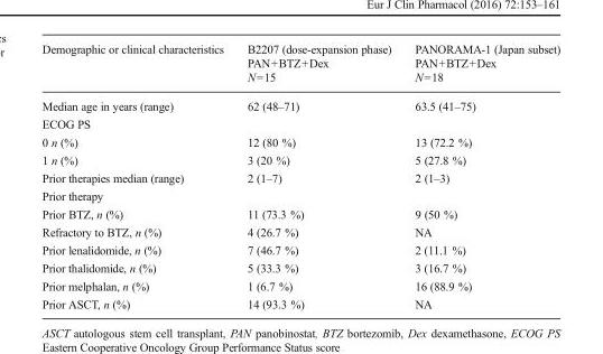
<table><thead><tr><td rowspan="3">Demographic or clinical characteristics</td><td rowspan="3">B2207 (dose-expansion phase) PAN+BTZ+Dex N=15</td><td rowspan="3">PANORAMA-1 (Japan subset) PAN+BTZ+Dex N=18</td></tr><tr></tr><tr></tr></thead><tbody><tr><td>Median age in years (range)</td><td>62 (48–71)</td><td>63.5 (41–75)</td></tr><tr><td colspan="3">ECOG PS</td></tr><tr><td>0 n (%)</td><td>12 (80 %)</td><td>13 (72.2 %)</td></tr><tr><td>1 n (%)</td><td>3 (20 %)</td><td>5 (27.8 %)</td></tr><tr><td>Prior therapies median (range)</td><td>2 (1–7)</td><td>2 (1–3)</td></tr><tr><td colspan="3">Prior therapy</td></tr><tr><td>Prior BTZ, n (%)</td><td>11 (73.3 %)</td><td>9 (50 %)</td></tr><tr><td>Refractory to BTZ, n (%)</td><td>4 (26.7 %)</td><td>NA</td></tr><tr><td>Prior lenalidomide, n (%)</td><td>7 (46.7 %)</td><td>2 (11.1 %)</td></tr><tr><td>Prior thalidomide, n (%)</td><td>5 (33.3 %)</td><td>3 (16.7 %)</td></tr><tr><td>Prior melphalan, n (%)</td><td>1 (6.7 %)</td><td>16 (88.9 %)</td></tr><tr><td>Prior ASCT, n (%)</td><td>14 (93.3 %)</td><td>NA</td></tr></tbody></table>